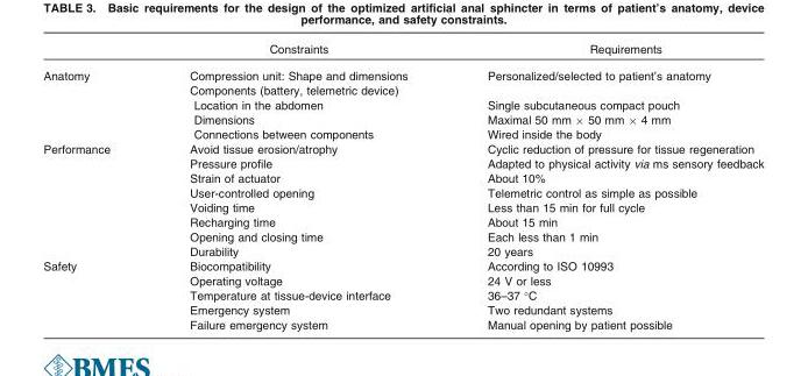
<table><thead><tr><td></td><td>Constraints</td><td>Requirements</td></tr></thead><tbody><tr><td rowspan="5">Anatomy</td><td>Compression unit: Shape and dimensions</td><td>Personalized/selected to patient’s anatomy</td></tr><tr><td>Components (battery, telemetric device)</td><td></td></tr><tr><td>Location in the abdomen</td><td>Single subcutaneous compact pouch</td></tr><tr><td>Dimensions</td><td>Maximal 50 mm × 50 mm × 4 mm</td></tr><tr><td>Connections between components</td><td>Wired inside the body</td></tr><tr><td rowspan="8">Performance</td><td>Avoid tissue erosion/atrophy</td><td>Cyclic reduction of pressure for tissue regeneration</td></tr><tr><td>Pressure profile</td><td>Adapted to physical activity via ms sensory feedback</td></tr><tr><td>Strain of actuator</td><td>About 10%</td></tr><tr><td>User-controlled opening</td><td>Telemetric control as simple as possible</td></tr><tr><td>Voiding time</td><td>Less than 15 min for full cycle</td></tr><tr><td>Recharging time</td><td>About 15 min</td></tr><tr><td>Opening and closing time</td><td>Each less than 1 min</td></tr><tr><td>Durability</td><td>20 years</td></tr><tr><td rowspan="5">Safety</td><td>Biocompatibility</td><td>According to ISO 10993</td></tr><tr><td>Operating voltage</td><td>24 V or less</td></tr><tr><td>Temperature at tissue-device interface</td><td>36–37 °C</td></tr><tr><td>Emergency system</td><td>Two redundant systems</td></tr><tr><td>Failure emergency system</td><td>Manual opening by patient possible</td></tr></tbody></table>